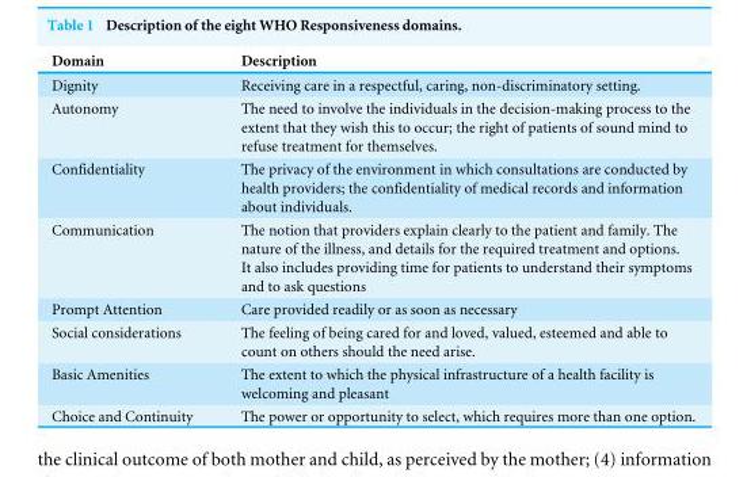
<table><thead><tr><td>Domain</td><td>Description</td></tr></thead><tbody><tr><td>Dignity</td><td>Receiving care in a respectful, caring, non-discriminatory setting.</td></tr><tr><td>Autonomy</td><td>The need to involve the individuals in the decision-making process to the extent that they wish this to occur; the right of patients of sound mind to refuse treatment for themselves.</td></tr><tr><td>Confidentiality</td><td>The privacy of the environment in which consultations are conducted by health providers; the confidentiality of medical records and information about individuals.</td></tr><tr><td>Communication</td><td>The notion that providers explain clearly to the patient and family. The nature of the illness, and details for the required treatment and options. It also includes providing time for patients to understand their symptoms and to ask questions</td></tr><tr><td>Prompt Attention</td><td>Care provided readily or as soon as necessary</td></tr><tr><td>Social considerations</td><td>The feeling of being cared for and loved, valued, esteemed and able to count on others should the need arise.</td></tr><tr><td>Basic Amenities</td><td>The extent to which the physical infrastructure of a health facility is welcoming and pleasant</td></tr><tr><td>Choice and Continuity</td><td>The power or opportunity to select, which requires more than one option.</td></tr></tbody></table>